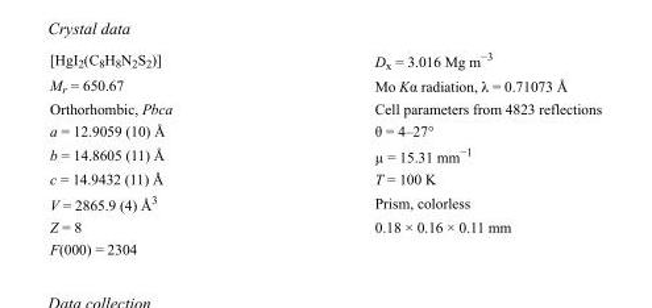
<table><tbody><tr><td>[HgI<sub>2</sub>(C<sub>8</sub>H<sub>8</sub>N<sub>2</sub>S<sub>2</sub>)]</td><td>D<sub>x</sub> = 3.016 Mg m<sup>−3</sup></td></tr><tr><td>M<sub>r</sub> = 650.67</td><td>Mo Kα radiation, λ = 0.71073 Å</td></tr><tr><td>Orthorhombic, Pbca</td><td>Cell parameters from 4823 reflections</td></tr><tr><td>a = 12.9059 (10) Å</td><td>θ = 4–27°</td></tr><tr><td>b = 14.8605 (11) Å</td><td>µ = 15.31 mm<sup>−1</sup></td></tr><tr><td>c = 14.9432 (11) Å</td><td>T = 100 K</td></tr><tr><td>V = 2865.9 (4) Å<sup>3</sup></td><td>Prism, colorless</td></tr><tr><td>Z = 8</td><td>0.18 × 0.16 × 0.11 mm</td></tr><tr><td>F(000) = 2304</td><td></td></tr></tbody></table>